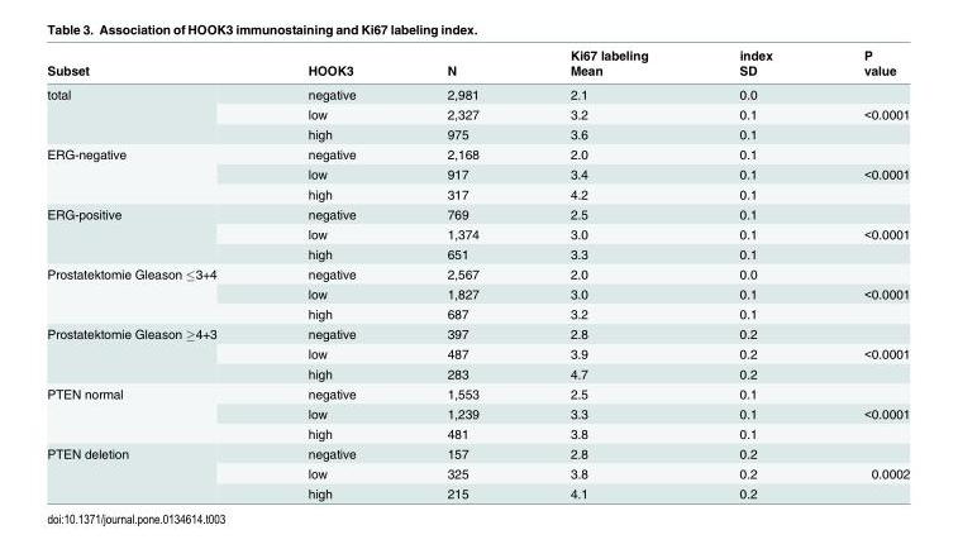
<table><thead><tr><td rowspan="2">Subset</td><td rowspan="2">HOOK3</td><td rowspan="2">N</td><td rowspan="2">Ki67 labeling Mean</td><td rowspan="2">index SD</td><td rowspan="2">P value</td></tr><tr></tr></thead><tbody><tr><td rowspan="3">total</td><td>negative</td><td>2,981</td><td>2.1</td><td>0.0</td><td></td></tr><tr><td>low</td><td>2,327</td><td>3.2</td><td>0.1</td><td>&lt;0.0001</td></tr><tr><td>high</td><td>975</td><td>3.6</td><td>0.1</td><td></td></tr><tr><td rowspan="3">ERG-negative</td><td>negative</td><td>2,168</td><td>2.0</td><td>0.1</td><td></td></tr><tr><td>low</td><td>917</td><td>3.4</td><td>0.1</td><td>&lt;0.0001</td></tr><tr><td>high</td><td>317</td><td>4.2</td><td>0.1</td><td></td></tr><tr><td rowspan="3">ERG-positive</td><td>negative</td><td>769</td><td>2.5</td><td>0.1</td><td></td></tr><tr><td>low</td><td>1,374</td><td>3.0</td><td>0.1</td><td>&lt;0.0001</td></tr><tr><td>high</td><td>651</td><td>3.3</td><td>0.1</td><td></td></tr><tr><td rowspan="3">Prostatektomie Gleason ≤3+4</td><td>negative</td><td>2,567</td><td>2.0</td><td>0.0</td><td></td></tr><tr><td>low</td><td>1,827</td><td>3.0</td><td>0.1</td><td>&lt;0.0001</td></tr><tr><td>high</td><td>687</td><td>3.2</td><td>0.1</td><td></td></tr><tr><td rowspan="3">Prostatektomie Gleason ≥4+3</td><td>negative</td><td>397</td><td>2.8</td><td>0.2</td><td></td></tr><tr><td>low</td><td>487</td><td>3.9</td><td>0.2</td><td>&lt;0.0001</td></tr><tr><td>high</td><td>283</td><td>4.7</td><td>0.2</td><td></td></tr><tr><td rowspan="3">PTEN normal</td><td>negative</td><td>1,553</td><td>2.5</td><td>0.1</td><td></td></tr><tr><td>low</td><td>1,239</td><td>3.3</td><td>0.1</td><td>&lt;0.0001</td></tr><tr><td>high</td><td>481</td><td>3.8</td><td>0.1</td><td></td></tr><tr><td rowspan="3">PTEN deletion</td><td>negative</td><td>157</td><td>2.8</td><td>0.2</td><td></td></tr><tr><td>low</td><td>325</td><td>3.8</td><td>0.2</td><td>0.0002</td></tr><tr><td>high</td><td>215</td><td>4.1</td><td>0.2</td><td></td></tr></tbody></table>